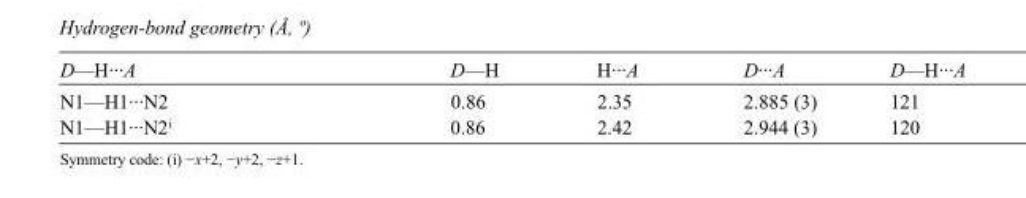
<table><tbody><tr><td>D—H···A</td><td>D—H</td><td>H···A</td><td>D···A</td><td>D—H···A</td></tr><tr><td>N1—H1···N2</td><td>0.86</td><td>2.35</td><td>2.885 (3)</td><td>121</td></tr><tr><td>N1—H1···N2<sup>i</sup></td><td>0.86</td><td>2.42</td><td>2.944 (3)</td><td>120</td></tr></tbody></table>